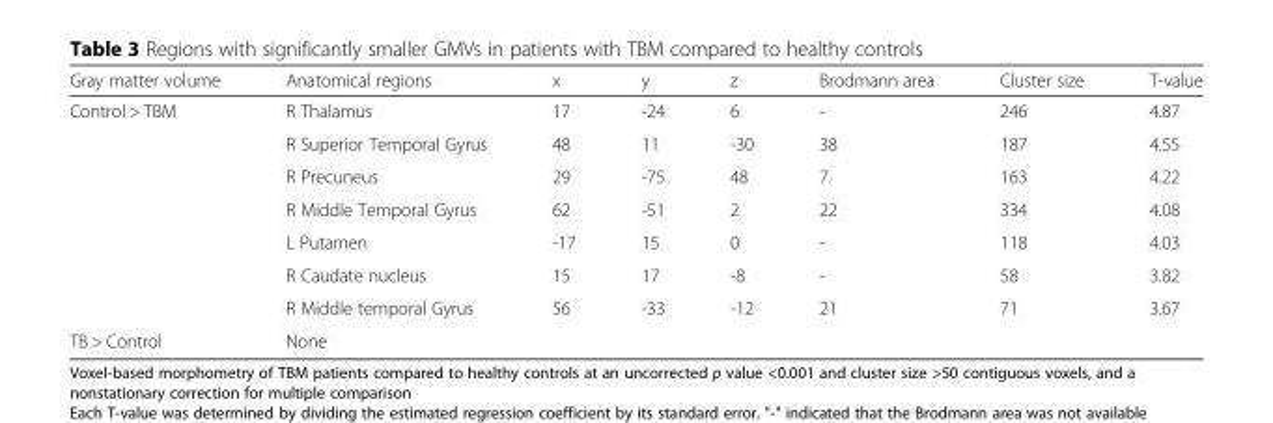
<table><thead><tr><td>Gray matter volume</td><td>Anatomical regions</td><td>x</td><td>y</td><td>z</td><td>Brodmann area</td><td>Cluster size</td><td>T-value</td></tr></thead><tbody><tr><td rowspan="7">Control &gt; TBM</td><td>R Thalamus</td><td>17</td><td>-24</td><td>6</td><td>-</td><td>246</td><td>4.87</td></tr><tr><td>R Superior Temporal Gyrus</td><td>48</td><td>11</td><td>-30</td><td>38</td><td>187</td><td>4.55</td></tr><tr><td>R Precuneus</td><td>29</td><td>-75</td><td>48</td><td>7</td><td>163</td><td>4.22</td></tr><tr><td>R Middle Temporal Gyrus</td><td>62</td><td>-51</td><td>2</td><td>22</td><td>334</td><td>4.08</td></tr><tr><td>L Putamen</td><td>-17</td><td>15</td><td>0</td><td>-</td><td>118</td><td>4.03</td></tr><tr><td>R Caudate nucleus</td><td>15</td><td>17</td><td>-8</td><td>-</td><td>58</td><td>3.82</td></tr><tr><td>R Middle temporal Gyrus</td><td>56</td><td>-33</td><td>-12</td><td>21</td><td>71</td><td>3.67</td></tr><tr><td>TB &gt; Control</td><td>None</td><td></td><td></td><td></td><td></td><td></td><td></td></tr></tbody></table>